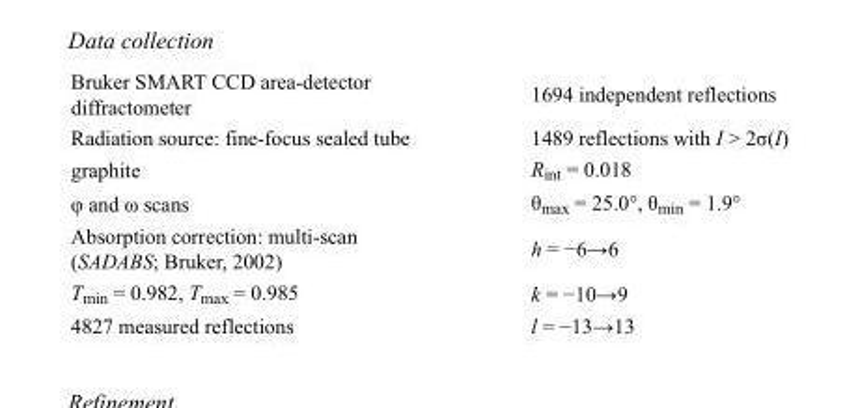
<table><tbody><tr><td>Bruker SMART CCD area-detector diffractometer</td><td>1694 independent reflections</td></tr><tr><td>Radiation source: fine-focus sealed tube</td><td>1489 reflections with I &gt; 2σ(I)</td></tr><tr><td>graphite</td><td>R<sub>int</sub> = 0.018</td></tr><tr><td>φ and ω scans</td><td>θ<sub>max</sub> = 25.0°, θ<sub>min</sub> = 1.9°</td></tr><tr><td>Absorption correction: multi-scan (SADABS; Bruker, 2002)</td><td>h = −6→6</td></tr><tr><td>T<sub>min</sub> = 0.982, T<sub>max</sub> = 0.985</td><td>k = −10→9</td></tr><tr><td>4827 measured reflections</td><td>l = −13→13</td></tr></tbody></table>